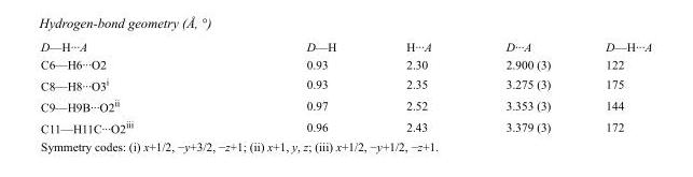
<table><tbody><tr><td>D—H···A</td><td>D—H</td><td>H···A</td><td>D···A</td><td>D—H···A</td></tr><tr><td>C6—H6···O2</td><td>0.93</td><td>2.30</td><td>2.900 (3)</td><td>122</td></tr><tr><td>C8—H8···O3<sup>i</sup></td><td>0.93</td><td>2.35</td><td>3.275 (3)</td><td>175</td></tr><tr><td>C9—H9B···O2<sup>ii</sup></td><td>0.97</td><td>2.52</td><td>3.353 (3)</td><td>144</td></tr><tr><td>C11—H11C···O2<sup>iii</sup></td><td>0.96</td><td>2.43</td><td>3.379 (3)</td><td>172</td></tr></tbody></table>